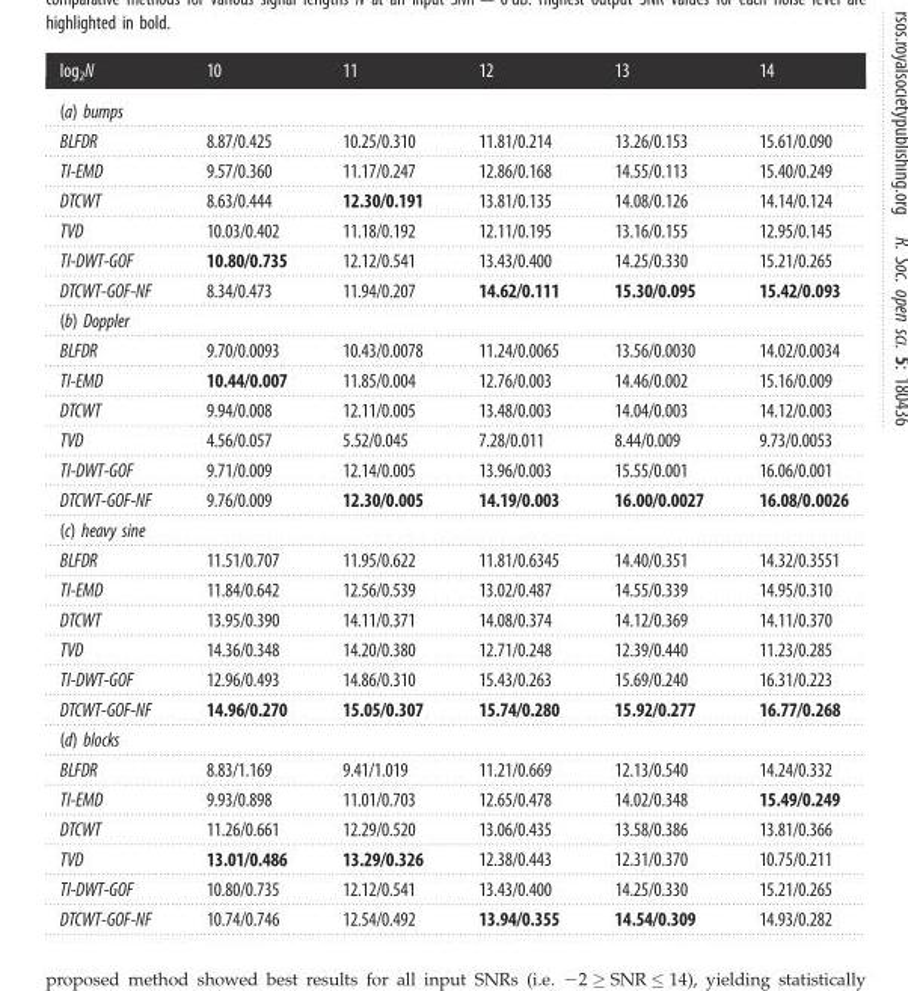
<table><thead><tr><td>log<sub>2</sub>N</td><td>10</td><td>11</td><td>12</td><td>13</td><td>14</td></tr></thead><tbody><tr><td colspan="6">(a) bumps</td></tr><tr><td>BLFDR</td><td>8.87/0.425</td><td>10.25/0.310</td><td>11.81/0.214</td><td>13.26/0.153</td><td>15.61/0.090</td></tr><tr><td>TI-EMD</td><td>9.57/0.360</td><td>11.17/0.247</td><td>12.86/0.168</td><td>14.55/0.113</td><td>15.40/0.249</td></tr><tr><td>DTCWT</td><td>8.63/0.444</td><td>12.30/0.191</td><td>13.81/0.135</td><td>14.08/0.126</td><td>14.14/0.124</td></tr><tr><td>TVD</td><td>10.03/0.402</td><td>11.18/0.192</td><td>12.11/0.195</td><td>13.16/0.155</td><td>12.95/0.145</td></tr><tr><td>TI-DWT-GOF</td><td>10.80/0.735</td><td>12.12/0.541</td><td>13.43/0.400</td><td>14.25/0.330</td><td>15.21/0.265</td></tr><tr><td>DTCWT-GOF-NF</td><td>8.34/0.473</td><td>11.94/0.207</td><td>14.62/0.111</td><td>15.30/0.095</td><td>15.42/0.093</td></tr><tr><td colspan="6">(b) Doppler</td></tr><tr><td>BLFDR</td><td>9.70/0.0093</td><td>10.43/0.0078</td><td>11.24/0.0065</td><td>13.56/0.0030</td><td>14.02/0.0034</td></tr><tr><td>TI-EMD</td><td>10.44/0.007</td><td>11.85/0.004</td><td>12.76/0.003</td><td>14.46/0.002</td><td>15.16/0.009</td></tr><tr><td>DTCWT</td><td>9.94/0.008</td><td>12.11/0.005</td><td>13.48/0.003</td><td>14.04/0.003</td><td>14.12/0.003</td></tr><tr><td>TVD</td><td>4.56/0.057</td><td>5.52/0.045</td><td>7.28/0.011</td><td>8.44/0.009</td><td>9.73/0.0053</td></tr><tr><td>TI-DWT-GOF</td><td>9.71/0.009</td><td>12.14/0.005</td><td>13.96/0.003</td><td>15.55/0.001</td><td>16.06/0.001</td></tr><tr><td>DTCWT-GOF-NF</td><td>9.76/0.009</td><td>12.30/0.005</td><td>14.19/0.003</td><td>16.00/0.0027</td><td>16.08/0.0026</td></tr><tr><td colspan="6">(c) heavy sine</td></tr><tr><td>BLFDR</td><td>11.51/0.707</td><td>11.95/0.622</td><td>11.81/0.6345</td><td>14.40/0.351</td><td>14.32/0.3551</td></tr><tr><td>TI-EMD</td><td>11.84/0.642</td><td>12.56/0.539</td><td>13.02/0.487</td><td>14.55/0.339</td><td>14.95/0.310</td></tr><tr><td>DTCWT</td><td>13.95/0.390</td><td>14.11/0.371</td><td>14.08/0.374</td><td>14.12/0.369</td><td>14.11/0.370</td></tr><tr><td>TVD</td><td>14.36/0.348</td><td>14.20/0.380</td><td>12.71/0.248</td><td>12.39/0.440</td><td>11.23/0.285</td></tr><tr><td>TI-DWT-GOF</td><td>12.96/0.493</td><td>14.86/0.310</td><td>15.43/0.263</td><td>15.69/0.240</td><td>16.31/0.223</td></tr><tr><td>DTCWT-GOF-NF</td><td>14.96/0.270</td><td>15.05/0.307</td><td>15.74/0.280</td><td>15.92/0.277</td><td>16.77/0.268</td></tr><tr><td colspan="6">(d) blocks</td></tr><tr><td>BLFDR</td><td>8.83/1.169</td><td>9.41/1.019</td><td>11.21/0.669</td><td>12.13/0.540</td><td>14.24/0.332</td></tr><tr><td>TI-EMD</td><td>9.93/0.898</td><td>11.01/0.703</td><td>12.65/0.478</td><td>14.02/0.348</td><td>15.49/0.249</td></tr><tr><td>DTCWT</td><td>11.26/0.661</td><td>12.29/0.520</td><td>13.06/0.435</td><td>13.58/0.386</td><td>13.81/0.366</td></tr><tr><td>TVD</td><td>13.01/0.486</td><td>13.29/0.326</td><td>12.38/0.443</td><td>12.31/0.370</td><td>10.75/0.211</td></tr><tr><td>TI-DWT-GOF</td><td>10.80/0.735</td><td>12.12/0.541</td><td>13.43/0.400</td><td>14.25/0.330</td><td>15.21/0.265</td></tr><tr><td>DTCWT-GOF-NF</td><td>10.74/0.746</td><td>12.54/0.492</td><td>13.94/0.355</td><td>14.54/0.309</td><td>14.93/0.282</td></tr></tbody></table>